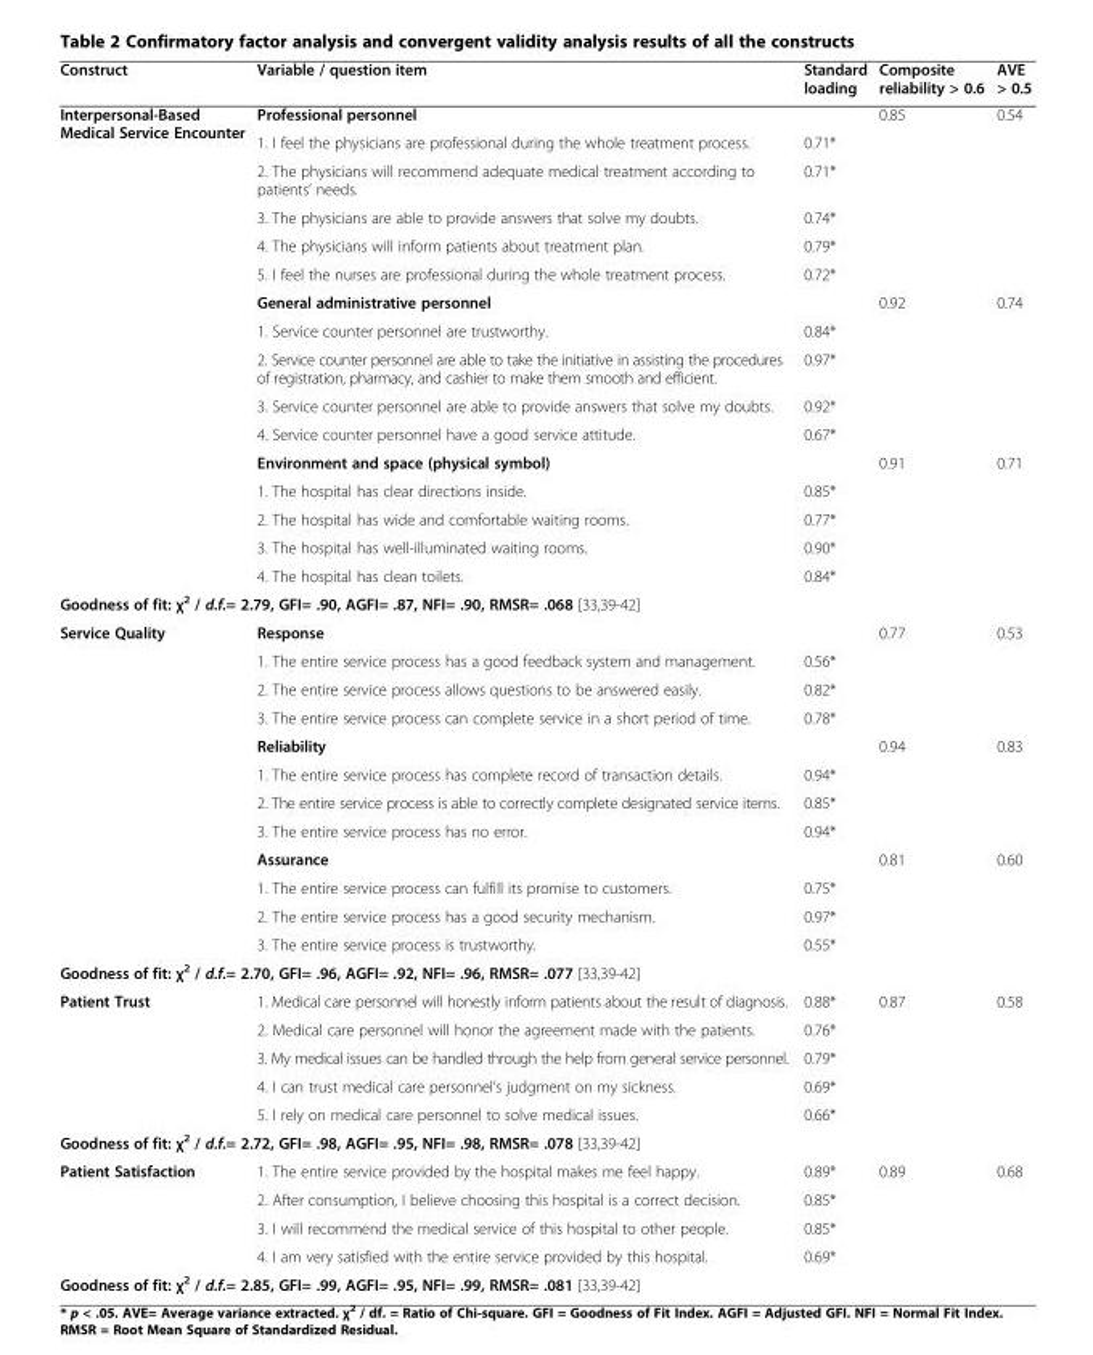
<table><thead><tr><td>Construct</td><td>Variable / question item</td><td>Standard loading</td><td>Composite reliability &gt; 0.6</td><td>AVE &gt; 0.5</td></tr></thead><tbody><tr><td rowspan="16">Interpersonal-Based Medical Service Encounter</td><td>Professional personnel</td><td></td><td rowspan="6">0.85</td><td rowspan="6">0.54</td></tr><tr><td>1. I feel the physicians are professional during the whole treatment process.</td><td>0.71*</td></tr><tr><td>2. The physicians will recommend adequate medical treatment according to patients’ needs.</td><td>0.71*</td></tr><tr><td>3. The physicians are able to provide answers that solve my doubts.</td><td>0.74*</td></tr><tr><td>4. The physicians will inform patients about treatment plan.</td><td>0.79*</td></tr><tr><td>5. I feel the nurses are professional during the whole treatment process.</td><td>0.72*</td></tr><tr><td>General administrative personnel</td><td></td><td rowspan="5">0.92</td><td rowspan="5">0.74</td></tr><tr><td>1. Service counter personnel are trustworthy.</td><td>0.84*</td></tr><tr><td>2. Service counter personnel are able to take the initiative in assisting the procedures of registration, pharmacy, and cashier to make them smooth and efficient.</td><td>0.97*</td></tr><tr><td>3. Service counter personnel are able to provide answers that solve my doubts.</td><td>0.92*</td></tr><tr><td>4. Service counter personnel have a good service attitude.</td><td>0.67*</td></tr><tr><td>Environment and space (physical symbol)</td><td></td><td rowspan="5">0.91</td><td rowspan="5">0.71</td></tr><tr><td>1. The hospital has clear directions inside.</td><td>0.85*</td></tr><tr><td>2. The hospital has wide and comfortable waiting rooms.</td><td>0.77*</td></tr><tr><td>3. The hospital has well-illuminated waiting rooms.</td><td>0.90*</td></tr><tr><td>4. The hospital has clean toilets.</td><td>0.84*</td></tr><tr><td colspan="5">Goodness of fit: χ<sup>2</sup> / d.f.= 2.79, GFI= .90, AGFI= .87, NFI= .90, RMSR= .068 [33,39-42]</td></tr><tr><td rowspan="12">Service Quality</td><td>Response</td><td></td><td rowspan="4">0.77</td><td rowspan="4">0.53</td></tr><tr><td>1. The entire service process has a good feedback system and management.</td><td>0.56*</td></tr><tr><td>2. The entire service process allows questions to be answered easily.</td><td>0.82*</td></tr><tr><td>3. The entire service process can complete service in a short period of time.</td><td>0.78*</td></tr><tr><td>Reliability</td><td></td><td rowspan="4">0.94</td><td rowspan="4">0.83</td></tr><tr><td>1. The entire service process has complete record of transaction details.</td><td>0.94*</td></tr><tr><td>2. The entire service process is able to correctly complete designated service items.</td><td>0.85*</td></tr><tr><td>3. The entire service process has no error.</td><td>0.94*</td></tr><tr><td>Assurance</td><td></td><td rowspan="4">0.81</td><td rowspan="4">0.60</td></tr><tr><td>1. The entire service process can fulfill its promise to customers.</td><td>0.75*</td></tr><tr><td>2. The entire service process has a good security mechanism.</td><td>0.97*</td></tr><tr><td>3. The entire service process is trustworthy.</td><td>0.55*</td></tr><tr><td colspan="5">Goodness of fit: χ<sup>2</sup> / d.f.= 2.70, GFI= .96, AGFI= .92, NFI= .96, RMSR= .077 [33,39-42]</td></tr><tr><td rowspan="5">Patient Trust</td><td>1. Medical care personnel will honestly inform patients about the result of diagnosis.</td><td>0.88*</td><td rowspan="5">0.87</td><td rowspan="5">0.58</td></tr><tr><td>2. Medical care personnel will honor the agreement made with the patients.</td><td>0.76*</td></tr><tr><td>3. My medical issues can be handled through the help from general service personnel.</td><td>0.79*</td></tr><tr><td>4. I can trust medical care personnel’s judgment on my sickness.</td><td>0.69*</td></tr><tr><td>5. I rely on medical care personnel to solve medical issues.</td><td>0.66*</td></tr><tr><td colspan="5">Goodness of fit: χ<sup>2</sup> / d.f.= 2.72, GFI= .98, AGFI= .95, NFI= .98, RMSR= .078 [33,39-42]</td></tr><tr><td rowspan="4">Patient Satisfaction</td><td>1. The entire service provided by the hospital makes me feel happy.</td><td>0.89*</td><td rowspan="4">0.89</td><td rowspan="4">0.68</td></tr><tr><td>2. After consumption, I believe choosing this hospital is a correct decision.</td><td>0.85*</td></tr><tr><td>3. I will recommend the medical service of this hospital to other people.</td><td>0.85*</td></tr><tr><td>4. I am very satisfied with the entire service provided by this hospital.</td><td>0.69*</td></tr><tr><td colspan="5">Goodness of fit: χ<sup>2</sup> / d.f.= 2.85, GFI= .99, AGFI= .95, NFI= .99, RMSR= .081 [33,39-42]</td></tr></tbody></table>